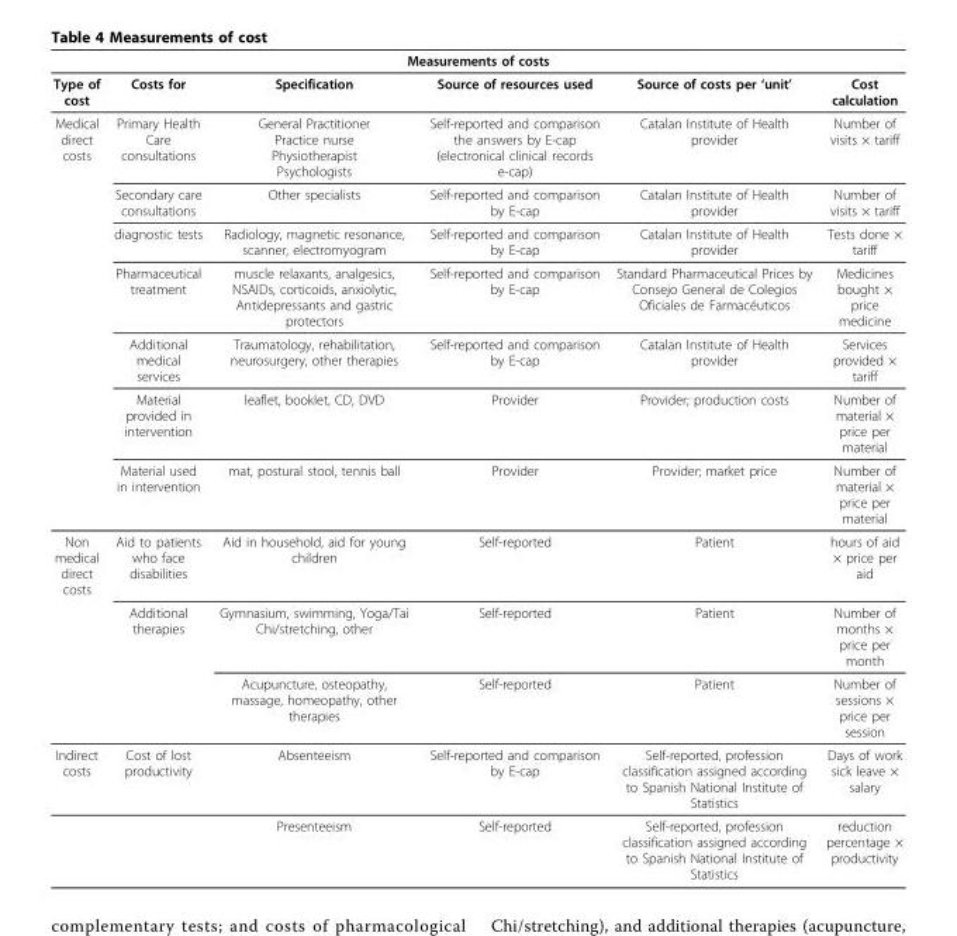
<table><thead><tr><td colspan="6">Measurements of costs</td></tr><tr><td>Type of cost</td><td>Costs for</td><td>Specification</td><td>Source of resources used</td><td>Source of costs per ‘unit’</td><td>Cost calculation</td></tr></thead><tbody><tr><td rowspan="7">Medical direct costs</td><td>Primary Health Care consultations</td><td>General Practitioner Practice nurse Physiotherapist Psychologists</td><td>Self-reported and comparison the answers by E-cap (electronical clinical records e-cap)</td><td>Catalan Institute of Health provider</td><td>Number of visits × tariff</td></tr><tr><td>Secondary care consultations</td><td>Other specialists</td><td>Self-reported and comparison by E-cap</td><td>Catalan Institute of Health provider</td><td>Number of visits × tariff</td></tr><tr><td>diagnostic tests</td><td>Radiology, magnetic resonance, scanner, electromyogram</td><td>Self-reported and comparison by E-cap</td><td>Catalan Institute of Health provider</td><td>Tests done × tariff</td></tr><tr><td>Pharmaceutical treatment</td><td>muscle relaxants, analgesics, NSAIDs, corticoids, anxiolytic, Antidepressants and gastric protectors</td><td>Self-reported and comparison by E-cap</td><td>Standard Pharmaceutical Prices by Consejo General de Colegios Oficiales de Farmacéuticos</td><td>Medicines bought × price medicine</td></tr><tr><td>Additional medical services</td><td>Traumatology, rehabilitation, neurosurgery, other therapies</td><td>Self-reported and comparison by E-cap</td><td>Catalan Institute of Health provider</td><td>Services provided × tariff</td></tr><tr><td>Material provided in intervention</td><td>leaflet, booklet, CD, DVD</td><td>Provider</td><td>Provider; production costs</td><td>Number of material × price per material</td></tr><tr><td>Material used in intervention</td><td>mat, postural stool, tennis ball</td><td>Provider</td><td>Provider; market price</td><td>Number of material × price per material</td></tr><tr><td rowspan="3">Non medical direct costs</td><td>Aid to patients who face disabilities</td><td>Aid in household, aid for young children</td><td>Self-reported</td><td>Patient</td><td>hours of aid × price per aid</td></tr><tr><td>Additional therapies</td><td>Gymnasium, swimming, Yoga/Tai Chi/stretching, other</td><td>Self-reported</td><td>Patient</td><td>Number of months × price per month</td></tr><tr><td></td><td>Acupuncture, osteopathy, massage, homeopathy, other therapies</td><td>Self-reported</td><td>Patient</td><td>Number of sessions × price per session</td></tr><tr><td rowspan="2">Indirect costs</td><td>Cost of lost productivity</td><td>Absenteeism</td><td>Self-reported and comparison by E-cap</td><td>Self-reported, profession classification assigned according to Spanish National Institute of Statistics</td><td>Days of work sick leave × salary</td></tr><tr><td></td><td>Presenteeism</td><td>Self-reported</td><td>Self-reported, profession classification assigned according to Spanish National Institute of Statistics</td><td>reduction percentage × productivity</td></tr></tbody></table>